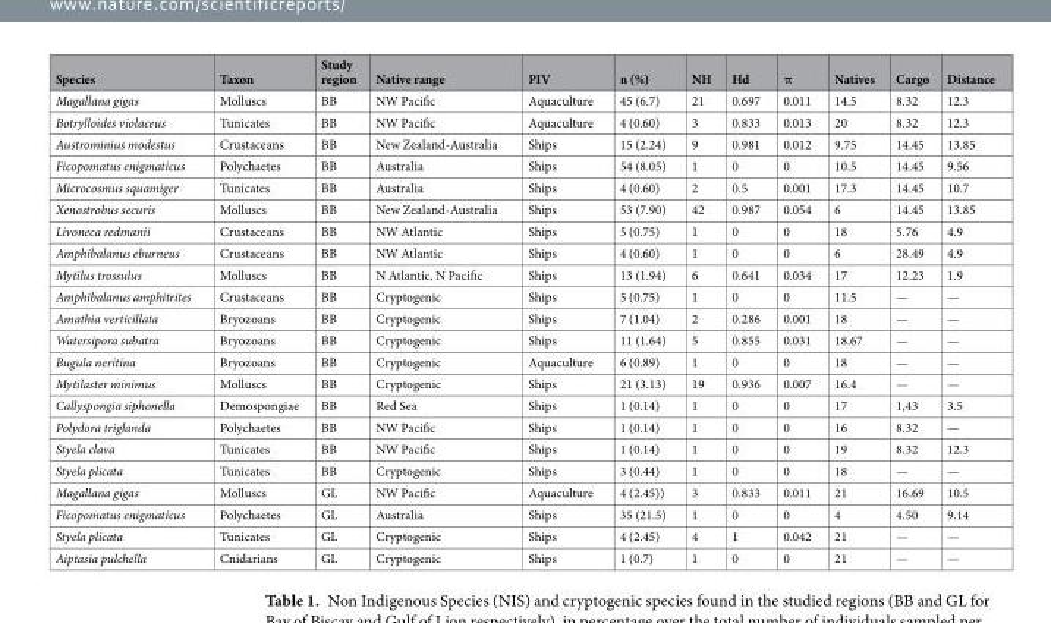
<table><thead><tr><td>Species</td><td>Taxon</td><td>Study region</td><td>Native range</td><td>PIV</td><td>n (%)</td><td>NH</td><td>Hd</td><td>π</td><td>Natives</td><td>Cargo</td><td>Distance</td></tr></thead><tbody><tr><td>Magallana gigas</td><td>Molluscs</td><td>BB</td><td>NW Pacific</td><td>Aquaculture</td><td>45 (6.7)</td><td>21</td><td>0.697</td><td>0.011</td><td>14.5</td><td>8.32</td><td>12.3</td></tr><tr><td>Botrylloides violaceus</td><td>Tunicates</td><td>BB</td><td>NW Pacific</td><td>Aquaculture</td><td>4 (0.60)</td><td>3</td><td>0.833</td><td>0.013</td><td>20</td><td>8.32</td><td>12.3</td></tr><tr><td>Austrominius modestus</td><td>Crustaceans</td><td>BB</td><td>New Zealand-Australia</td><td>Ships</td><td>15 (2.24)</td><td>9</td><td>0.981</td><td>0.012</td><td>9.75</td><td>14.45</td><td>13.85</td></tr><tr><td>Ficopomatus enigmaticus</td><td>Polychaetes</td><td>BB</td><td>Australia</td><td>Ships</td><td>54 (8.05)</td><td>1</td><td>0</td><td>0</td><td>10.5</td><td>14.45</td><td>9.56</td></tr><tr><td>Microcosmus squamiger</td><td>Tunicates</td><td>BB</td><td>Australia</td><td>Ships</td><td>4 (0.60)</td><td>2</td><td>0.5</td><td>0.001</td><td>17.3</td><td>14.45</td><td>10.7</td></tr><tr><td>Xenostrobus securis</td><td>Molluscs</td><td>BB</td><td>New Zealand-Australia</td><td>Ships</td><td>53 (7.90)</td><td>42</td><td>0.987</td><td>0.054</td><td>6</td><td>14.45</td><td>13.85</td></tr><tr><td>Livoneca redmanii</td><td>Crustaceans</td><td>BB</td><td>NW Atlantic</td><td>Ships</td><td>5 (0.75)</td><td>1</td><td>0</td><td>0</td><td>18</td><td>5.76</td><td>4.9</td></tr><tr><td>Amphibalanus eburneus</td><td>Crustaceans</td><td>BB</td><td>NW Atlantic</td><td>Ships</td><td>4 (0.60)</td><td>1</td><td>0</td><td>0</td><td>6</td><td>28.49</td><td>4.9</td></tr><tr><td>Mytilus trossulus</td><td>Molluscs</td><td>BB</td><td>N Atlantic, N Pacific</td><td>Ships</td><td>13 (1.94)</td><td>6</td><td>0.641</td><td>0.034</td><td>17</td><td>12.23</td><td>1.9</td></tr><tr><td>Amphibalanus amphitrites</td><td>Crustaceans</td><td>BB</td><td>Cryptogenic</td><td>Ships</td><td>5 (0.75)</td><td>1</td><td>0</td><td>0</td><td>11.5</td><td>—</td><td>—</td></tr><tr><td>Amathia verticillata</td><td>Bryozoans</td><td>BB</td><td>Cryptogenic</td><td>Ships</td><td>7 (1.04)</td><td>2</td><td>0.286</td><td>0.001</td><td>18</td><td>—</td><td>—</td></tr><tr><td>Watersipora subatra</td><td>Bryozoans</td><td>BB</td><td>Cryptogenic</td><td>Ships</td><td>11 (1.64)</td><td>5</td><td>0.855</td><td>0.031</td><td>18.67</td><td>—</td><td>—</td></tr><tr><td>Bugula neritina</td><td>Bryozoans</td><td>BB</td><td>Cryptogenic</td><td>Aquaculture</td><td>6 (0.89)</td><td>1</td><td>0</td><td>0</td><td>18</td><td>—</td><td>—</td></tr><tr><td>Mytilaster minimus</td><td>Molluscs</td><td>BB</td><td>Cryptogenic</td><td>Ships</td><td>21 (3.13)</td><td>19</td><td>0.936</td><td>0.007</td><td>16.4</td><td>—</td><td>—</td></tr><tr><td>Callyspongia siphonella</td><td>Demospongiae</td><td>BB</td><td>Red Sea</td><td>Ships</td><td>1 (0.14)</td><td>1</td><td>0</td><td>0</td><td>17</td><td>1,43</td><td>3.5</td></tr><tr><td>Polydora triglanda</td><td>Polychaetes</td><td>BB</td><td>NW Pacific</td><td>Ships</td><td>1 (0.14)</td><td>1</td><td>0</td><td>0</td><td>16</td><td>8.32</td><td>—</td></tr><tr><td>Styela clava</td><td>Tunicates</td><td>BB</td><td>NW Pacific</td><td>Ships</td><td>1 (0.14)</td><td>1</td><td>0</td><td>0</td><td>19</td><td>8.32</td><td>12.3</td></tr><tr><td>Styela plicata</td><td>Tunicates</td><td>BB</td><td>Cryptogenic</td><td>Ships</td><td>3 (0.44)</td><td>1</td><td>0</td><td>0</td><td>18</td><td>—</td><td>—</td></tr><tr><td>Magallana gigas</td><td>Molluscs</td><td>GL</td><td>NW Pacific</td><td>Aquaculture</td><td>4 (2.45))</td><td>3</td><td>0.833</td><td>0.011</td><td>21</td><td>16.69</td><td>10.5</td></tr><tr><td>Ficopomatus enigmaticus</td><td>Polychaetes</td><td>GL</td><td>Australia</td><td>Ships</td><td>35 (21.5)</td><td>1</td><td>0</td><td>0</td><td>4</td><td>4.50</td><td>9.14</td></tr><tr><td>Styela plicata</td><td>Tunicates</td><td>GL</td><td>Cryptogenic</td><td>Ships</td><td>4 (2.45)</td><td>4</td><td>1</td><td>0.042</td><td>21</td><td>—</td><td>—</td></tr><tr><td>Aiptasia pulchella</td><td>Cnidarians</td><td>GL</td><td>Cryptogenic</td><td>Ships</td><td>1 (0.7)</td><td>1</td><td>0</td><td>0</td><td>21</td><td>—</td><td>—</td></tr></tbody></table>